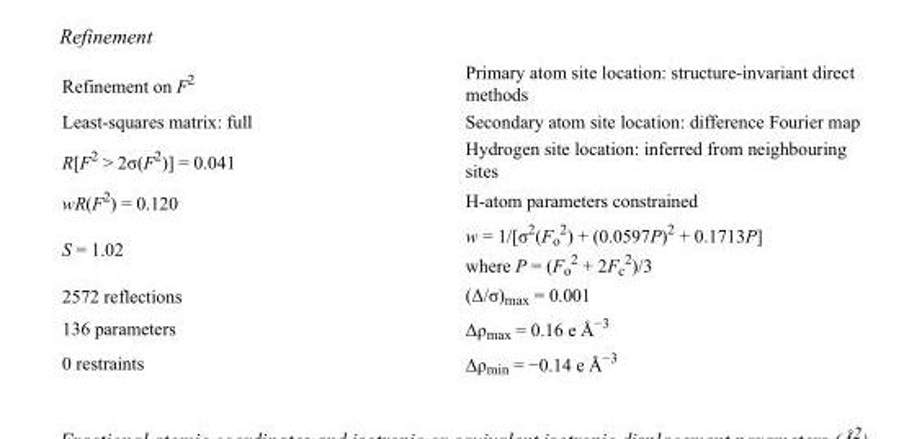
<table><tbody><tr><td>Refinement on F<sup>2</sup></td><td>Primary atom site location: structure-invariant direct methods</td></tr><tr><td>Least-squares matrix: full</td><td>Secondary atom site location: difference Fourier map</td></tr><tr><td>R[F<sup>2</sup> &gt; 2σ(F<sup>2</sup>)] = 0.041</td><td>Hydrogen site location: inferred from neighbouring sites</td></tr><tr><td>wR(F<sup>2</sup>) = 0.120</td><td>H-atom parameters constrained</td></tr><tr><td>S = 1.02</td><td>w = 1/[σ<sup>2</sup>(F<sub>o</sub> <sup>2</sup>) + (0.0597P)<sup>2</sup> + 0.1713P] where P = (F<sub>o</sub> <sup>2</sup> + 2F<sub>c</sub> <sup>2</sup>)/3</td></tr><tr><td>2572 reflections</td><td>(Δ/σ)<sub>max</sub> = 0.001</td></tr><tr><td>136 parameters</td><td>Δρ<sub>max</sub> = 0.16 e Å<sup>−3</sup></td></tr><tr><td>0 restraints</td><td>Δρ<sub>min</sub> = −0.14 e Å<sup>−3</sup></td></tr></tbody></table>